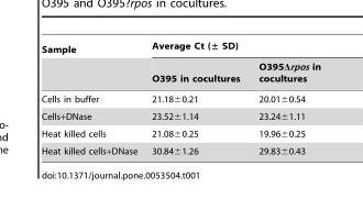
<table><thead><tr><td rowspan="2">Sample</td><td colspan="2">Average Ct (± SD)</td></tr><tr><td>O395 in cocultures</td><td>O395Δrpos in cocultures</td></tr></thead><tbody><tr><td>Cells in buffer</td><td>21.18±0.21</td><td>20.01±0.54</td></tr><tr><td>Cells+DNase</td><td>23.52±1.14</td><td>23.24±1.11</td></tr><tr><td>Heat killed cells</td><td>21.08±0.25</td><td>19.96±0.25</td></tr><tr><td>Heat killed cells+DNase</td><td>30.84±1.26</td><td>29.83±0.43</td></tr></tbody></table>